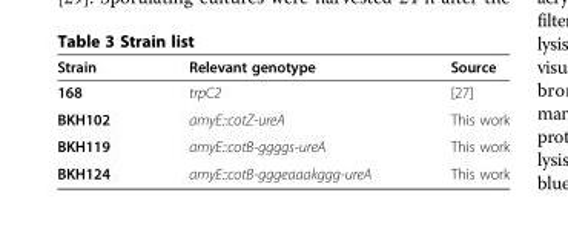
<table><thead><tr><td>Strain</td><td>Relevant genotype</td><td>Source</td></tr></thead><tbody><tr><td>168</td><td>trpC2</td><td>[27]</td></tr><tr><td>BKH102</td><td>amyE::cotZ-ureA</td><td>This work</td></tr><tr><td>BKH119</td><td>amyE::cotB-ggggs-ureA</td><td>This work</td></tr><tr><td>BKH124</td><td>amyE::cotB-gggeaaakggg-ureA</td><td>This work</td></tr></tbody></table>